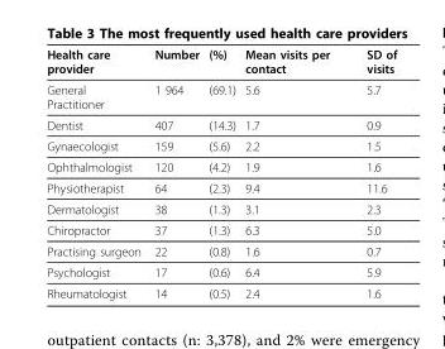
<table><thead><tr><td>Health care provider</td><td>Number</td><td>(%)</td><td>Mean visits per contact</td><td>SD of visits</td></tr></thead><tbody><tr><td>General Practitioner</td><td>1 964</td><td>(69.1)</td><td>5.6</td><td>5.7</td></tr><tr><td>Dentist</td><td>407</td><td>(14.3)</td><td>1.7</td><td>0.9</td></tr><tr><td>Gynaecologist</td><td>159</td><td>(5.6)</td><td>2.2</td><td>1.5</td></tr><tr><td>Ophthalmologist</td><td>120</td><td>(4.2)</td><td>1.9</td><td>1.6</td></tr><tr><td>Physiotherapist</td><td>64</td><td>(2.3)</td><td>9.4</td><td>11.6</td></tr><tr><td>Dermatologist</td><td>38</td><td>(1.3)</td><td>3.1</td><td>2.3</td></tr><tr><td>Chiropractor</td><td>37</td><td>(1.3)</td><td>6.3</td><td>5.0</td></tr><tr><td>Practising surgeon</td><td>22</td><td>(0.8)</td><td>1.6</td><td>0.7</td></tr><tr><td>Psychologist</td><td>17</td><td>(0.6)</td><td>6.4</td><td>5.9</td></tr><tr><td>Rheumatologist</td><td>14</td><td>(0.5)</td><td>2.4</td><td>1.6</td></tr></tbody></table>